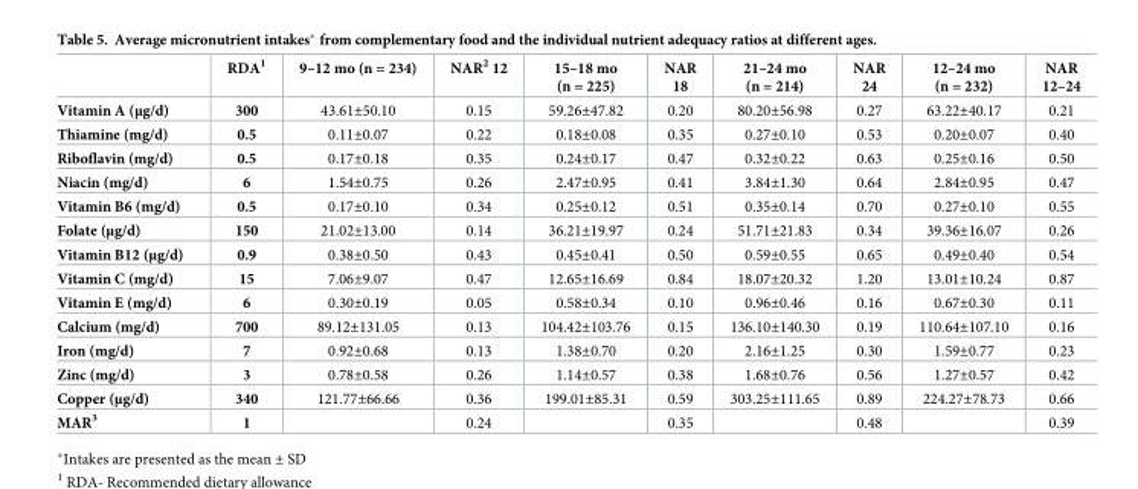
<table><thead><tr><td></td><td>RDA<sup>1</sup></td><td>9–12 mo (n = 234)</td><td>NAR<sup>2</sup> 12</td><td>15–18 mo (n = 225)</td><td>NAR 18</td><td>21–24 mo (n = 214)</td><td>NAR 24</td><td>12–24 mo (n = 232)</td><td>NAR 12–24</td></tr></thead><tbody><tr><td>Vitamin A (μg/d)</td><td>300</td><td>43.61±50.10</td><td>0.15</td><td>59.26±47.82</td><td>0.20</td><td>80.20±56.98</td><td>0.27</td><td>63.22±40.17</td><td>0.21</td></tr><tr><td>Thiamine (mg/d)</td><td>0.5</td><td>0.11±0.07</td><td>0.22</td><td>0.18±0.08</td><td>0.35</td><td>0.27±0.10</td><td>0.53</td><td>0.20±0.07</td><td>0.40</td></tr><tr><td>Riboflavin (mg/d)</td><td>0.5</td><td>0.17±0.18</td><td>0.35</td><td>0.24±0.17</td><td>0.47</td><td>0.32±0.22</td><td>0.63</td><td>0.25±0.16</td><td>0.50</td></tr><tr><td>Niacin (mg/d)</td><td>6</td><td>1.54±0.75</td><td>0.26</td><td>2.47±0.95</td><td>0.41</td><td>3.84±1.30</td><td>0.64</td><td>2.84±0.95</td><td>0.47</td></tr><tr><td>Vitamin B6 (mg/d)</td><td>0.5</td><td>0.17±0.10</td><td>0.34</td><td>0.25±0.12</td><td>0.51</td><td>0.35±0.14</td><td>0.70</td><td>0.27±0.10</td><td>0.55</td></tr><tr><td>Folate (μg/d)</td><td>150</td><td>21.02±13.00</td><td>0.14</td><td>36.21±19.97</td><td>0.24</td><td>51.71±21.83</td><td>0.34</td><td>39.36±16.07</td><td>0.26</td></tr><tr><td>Vitamin B12 (μg/d)</td><td>0.9</td><td>0.38±0.50</td><td>0.43</td><td>0.45±0.41</td><td>0.50</td><td>0.59±0.55</td><td>0.65</td><td>0.49±0.40</td><td>0.54</td></tr><tr><td>Vitamin C (mg/d)</td><td>15</td><td>7.06±9.07</td><td>0.47</td><td>12.65±16.69</td><td>0.84</td><td>18.07±20.32</td><td>1.20</td><td>13.01±10.24</td><td>0.87</td></tr><tr><td>Vitamin E (mg/d)</td><td>6</td><td>0.30±0.19</td><td>0.05</td><td>0.58±0.34</td><td>0.10</td><td>0.96±0.46</td><td>0.16</td><td>0.67±0.30</td><td>0.11</td></tr><tr><td>Calcium (mg/d)</td><td>700</td><td>89.12±131.05</td><td>0.13</td><td>104.42±103.76</td><td>0.15</td><td>136.10±140.30</td><td>0.19</td><td>110.64±107.10</td><td>0.16</td></tr><tr><td>Iron (mg/d)</td><td>7</td><td>0.92±0.68</td><td>0.13</td><td>1.38±0.70</td><td>0.20</td><td>2.16±1.25</td><td>0.30</td><td>1.59±0.77</td><td>0.23</td></tr><tr><td>Zinc (mg/d)</td><td>3</td><td>0.78±0.58</td><td>0.26</td><td>1.14±0.57</td><td>0.38</td><td>1.68±0.76</td><td>0.56</td><td>1.27±0.57</td><td>0.42</td></tr><tr><td>Copper (μg/d)</td><td>340</td><td>121.77±66.66</td><td>0.36</td><td>199.01±85.31</td><td>0.59</td><td>303.25±111.65</td><td>0.89</td><td>224.27±78.73</td><td>0.66</td></tr><tr><td>MAR<sup>3</sup></td><td>1</td><td></td><td>0.24</td><td></td><td>0.35</td><td></td><td>0.48</td><td></td><td>0.39</td></tr></tbody></table>